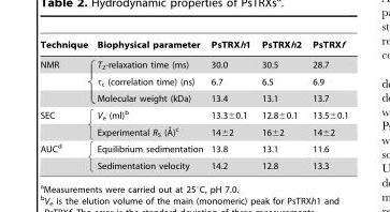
<table><thead><tr><td>Technique</td><td>Biophysical parameter</td><td>PsTRXh1</td><td>PsTRXh2</td><td>PsTRXf</td></tr></thead><tbody><tr><td rowspan="3">NMR</td><td>T<sub>2</sub>-relaxation time (ms)</td><td>30.0</td><td>30.5</td><td>28.7</td></tr><tr><td>τ<sub>c</sub> (correlation time) (ns)</td><td>6.7</td><td>6.5</td><td>6.9</td></tr><tr><td>Molecular weight (kDa)</td><td>13.4</td><td>13.1</td><td>13.7</td></tr><tr><td rowspan="2">SEC</td><td>V<sub>e</sub> (ml)<sup>b</sup></td><td>13.3±0.1</td><td>12.8±0.1</td><td>13.5±0.1</td></tr><tr><td>Experimental RS (A˚)c</td><td>14±2</td><td>16±2</td><td>14±2</td></tr><tr><td rowspan="2">AUC<sup>d</sup></td><td>Equilibrium sedimentation</td><td>13.8</td><td>13.1</td><td>11.6</td></tr><tr><td>Sedimentation velocity</td><td>14.2</td><td>12.8</td><td>13.3</td></tr></tbody></table>